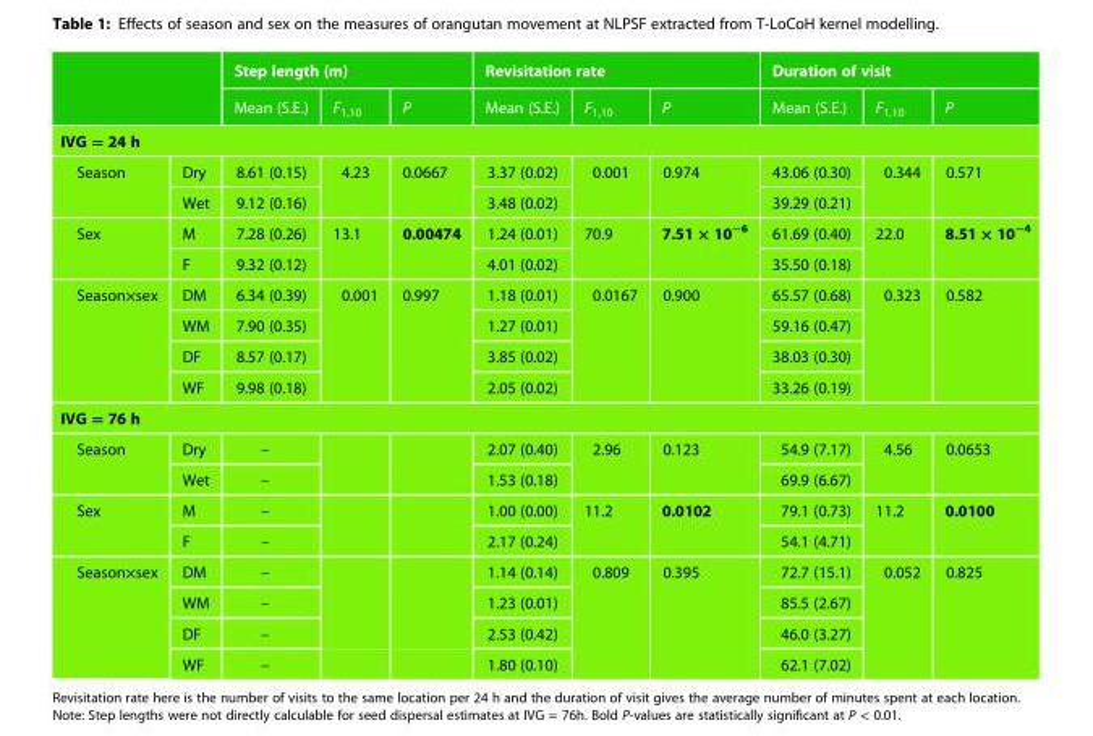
<table><thead><tr><td rowspan="2"></td><td rowspan="2"></td><td colspan="3">Step length (m)</td><td colspan="3">Revisitation rate</td><td colspan="3">Duration of visit</td></tr><tr><td>Mean (S.E.)</td><td>F<sub>1,10</sub></td><td>P</td><td>Mean (S.E.)</td><td>F<sub>1,10</sub></td><td>P</td><td>Mean (S.E.)</td><td>F<sub>1,10</sub></td><td>P</td></tr></thead><tbody><tr><td colspan="11">IVG = 24 h</td></tr><tr><td rowspan="2">Season</td><td>Dry</td><td>8.61 (0.15)</td><td rowspan="2">4.23</td><td rowspan="2">0.0667</td><td>3.37 (0.02)</td><td rowspan="2">0.001</td><td rowspan="2">0.974</td><td>43.06 (0.30)</td><td rowspan="2">0.344</td><td rowspan="2">0.571</td></tr><tr><td>Wet</td><td>9.12 (0.16)</td><td>3.48 (0.02)</td><td>39.29 (0.21)</td></tr><tr><td rowspan="2">Sex</td><td>M</td><td>7.28 (0.26)</td><td rowspan="2">13.1</td><td rowspan="2">0.00474</td><td>1.24 (0.01)</td><td rowspan="2">70.9</td><td rowspan="2">7.51 × 10<sup>−6</sup></td><td>61.69 (0.40)</td><td rowspan="2">22.0</td><td rowspan="2">8.51 × 10<sup>−4</sup></td></tr><tr><td>F</td><td>9.32 (0.12)</td><td>4.01 (0.02)</td><td>35.50 (0.18)</td></tr><tr><td rowspan="4">Season×sex</td><td>DM</td><td>6.34 (0.39)</td><td rowspan="4">0.001</td><td rowspan="4">0.997</td><td>1.18 (0.01)</td><td rowspan="4">0.0167</td><td rowspan="4">0.900</td><td>65.57 (0.68)</td><td rowspan="4">0.323</td><td rowspan="4">0.582</td></tr><tr><td>WM</td><td>7.90 (0.35)</td><td>1.27 (0.01)</td><td>59.16 (0.47)</td></tr><tr><td>DF</td><td>8.57 (0.17)</td><td>3.85 (0.02)</td><td>38.03 (0.30)</td></tr><tr><td>WF</td><td>9.98 (0.18)</td><td>2.05 (0.02)</td><td>33.26 (0.19)</td></tr><tr><td colspan="11">IVG = 76 h</td></tr><tr><td rowspan="2">Season</td><td>Dry</td><td>–</td><td rowspan="2"></td><td rowspan="2"></td><td>2.07 (0.40)</td><td rowspan="2">2.96</td><td rowspan="2">0.123</td><td>54.9 (7.17)</td><td rowspan="2">4.56</td><td rowspan="2">0.0653</td></tr><tr><td>Wet</td><td>–</td><td>1.53 (0.18)</td><td>69.9 (6.67)</td></tr><tr><td rowspan="2">Sex</td><td>M</td><td>–</td><td rowspan="2"></td><td rowspan="2"></td><td>1.00 (0.00)</td><td rowspan="2">11.2</td><td rowspan="2">0.0102</td><td>79.1 (0.73)</td><td rowspan="2">11.2</td><td rowspan="2">0.0100</td></tr><tr><td>F</td><td>–</td><td>2.17 (0.24)</td><td>54.1 (4.71)</td></tr><tr><td rowspan="4">Season×sex</td><td>DM</td><td>–</td><td rowspan="3"></td><td rowspan="3"></td><td>1.14 (0.14)</td><td rowspan="4">0.809</td><td rowspan="4">0.395</td><td>72.7 (15.1)</td><td rowspan="4">0.052</td><td rowspan="4">0.825</td></tr><tr><td>WM</td><td>–</td><td>1.23 (0.01)</td><td>85.5 (2.67)</td></tr><tr><td>DF</td><td>–</td><td>2.53 (0.42)</td><td>46.0 (3.27)</td></tr><tr><td>WF</td><td>–</td><td></td><td></td><td>1.80 (0.10)</td><td>62.1 (7.02)</td></tr></tbody></table>